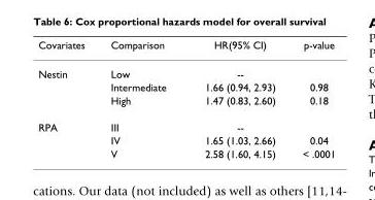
<table><thead><tr><td>Covariates</td><td>Comparison</td><td>HR(95% CI)</td><td>p-value</td></tr></thead><tbody><tr><td rowspan="3">Nestin</td><td>Low</td><td>--</td><td></td></tr><tr><td>Intermediate</td><td>1.66 (0.94, 2.93)</td><td>0.98</td></tr><tr><td>High</td><td>1.47 (0.83, 2.60)</td><td>0.18</td></tr><tr><td rowspan="3">RPA</td><td>III</td><td>--</td><td></td></tr><tr><td>IV</td><td>1.65 (1.03, 2.66)</td><td>0.04</td></tr><tr><td>V</td><td>2.58 (1.60, 4.15)</td><td>&lt; .0001</td></tr></tbody></table>